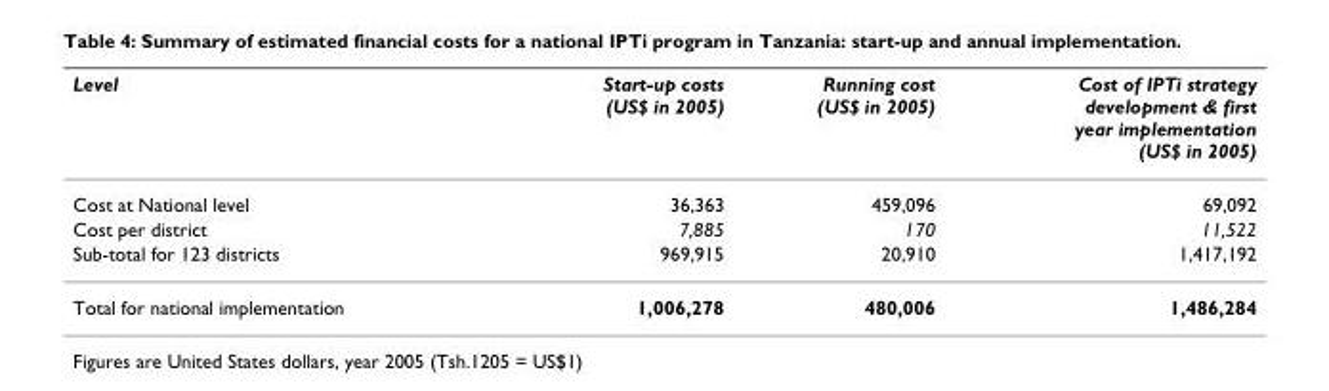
<table><thead><tr><td>Level</td><td>Start-up costs (US$ in 2005)</td><td>Running cost (US$ in 2005)</td><td>Cost of IPTi strategy development &amp; first year implementation (US$ in 2005)</td></tr></thead><tbody><tr><td>Cost at National level</td><td>36,363</td><td>459,096</td><td>69,092</td></tr><tr><td>Cost per district</td><td>7,885</td><td>170</td><td>11,522</td></tr><tr><td>Sub-total for 123 districts</td><td>969,915</td><td>20,910</td><td>1,417,192</td></tr><tr><td>Total for national implementation</td><td>1,006,278</td><td>480,006</td><td>1,486,284</td></tr></tbody></table>